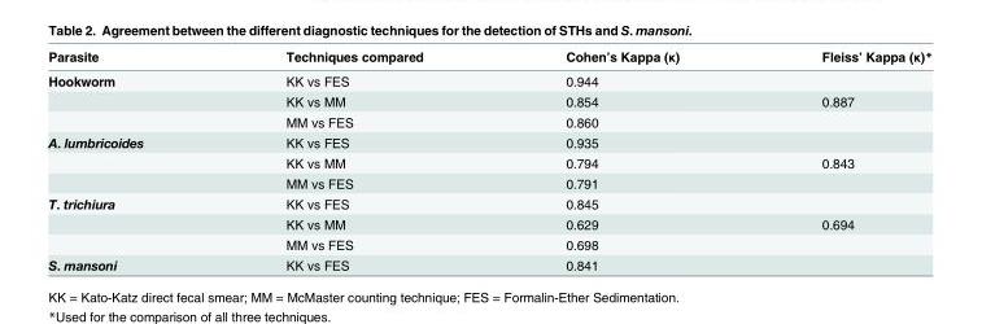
<table><thead><tr><td>Parasite</td><td>Techniques compared</td><td>Cohen’s Kappa (κ)</td><td>Fleiss’ Kappa (κ)*</td></tr></thead><tbody><tr><td rowspan="3">Hookworm</td><td>KK vs FES</td><td>0.944</td><td></td></tr><tr><td>KK vs MM</td><td>0.854</td><td>0.887</td></tr><tr><td>MM vs FES</td><td>0.860</td><td></td></tr><tr><td rowspan="3">A. lumbricoides</td><td>KK vs FES</td><td>0.935</td><td></td></tr><tr><td>KK vs MM</td><td>0.794</td><td>0.843</td></tr><tr><td>MM vs FES</td><td>0.791</td><td></td></tr><tr><td rowspan="3">T. trichiura</td><td>KK vs FES</td><td>0.845</td><td></td></tr><tr><td>KK vs MM</td><td>0.629</td><td>0.694</td></tr><tr><td>MM vs FES</td><td>0.698</td><td></td></tr><tr><td>S. mansoni</td><td>KK vs FES</td><td>0.841</td><td></td></tr></tbody></table>